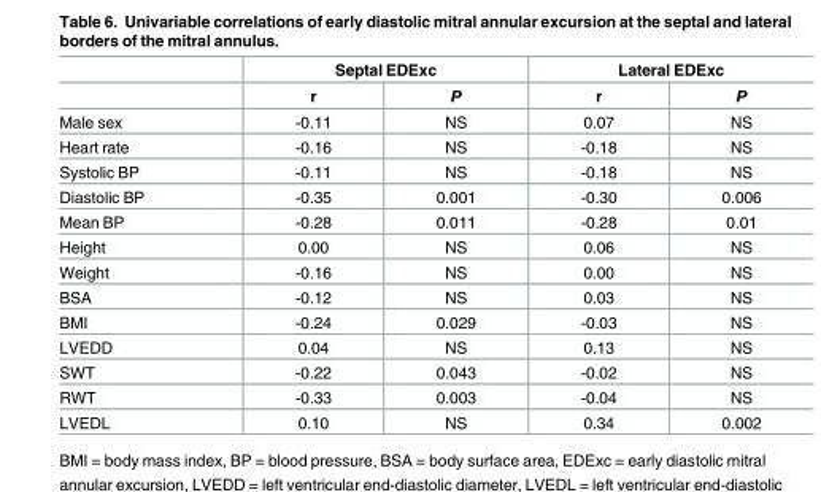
<table><thead><tr><td rowspan="2"></td><td colspan="2">Septal EDExc</td><td colspan="2">Lateral EDExc</td></tr><tr><td>r</td><td>P</td><td>r</td><td>P</td></tr></thead><tbody><tr><td>Male sex</td><td>-0.11</td><td>NS</td><td>0.07</td><td>NS</td></tr><tr><td>Heart rate</td><td>-0.16</td><td>NS</td><td>-0.18</td><td>NS</td></tr><tr><td>Systolic BP</td><td>-0.11</td><td>NS</td><td>-0.18</td><td>NS</td></tr><tr><td>Diastolic BP</td><td>-0.35</td><td>0.001</td><td>-0.30</td><td>0.006</td></tr><tr><td>Mean BP</td><td>-0.28</td><td>0.011</td><td>-0.28</td><td>0.01</td></tr><tr><td>Height</td><td>0.00</td><td>NS</td><td>0.06</td><td>NS</td></tr><tr><td>Weight</td><td>-0.16</td><td>NS</td><td>0.00</td><td>NS</td></tr><tr><td>BSA</td><td>-0.12</td><td>NS</td><td>0.03</td><td>NS</td></tr><tr><td>BMI</td><td>-0.24</td><td>0.029</td><td>-0.03</td><td>NS</td></tr><tr><td>LVEDD</td><td>0.04</td><td>NS</td><td>0.13</td><td>NS</td></tr><tr><td>SWT</td><td>-0.22</td><td>0.043</td><td>-0.02</td><td>NS</td></tr><tr><td>RWT</td><td>-0.33</td><td>0.003</td><td>-0.04</td><td>NS</td></tr><tr><td>LVEDL</td><td>0.10</td><td>NS</td><td>0.34</td><td>0.002</td></tr></tbody></table>